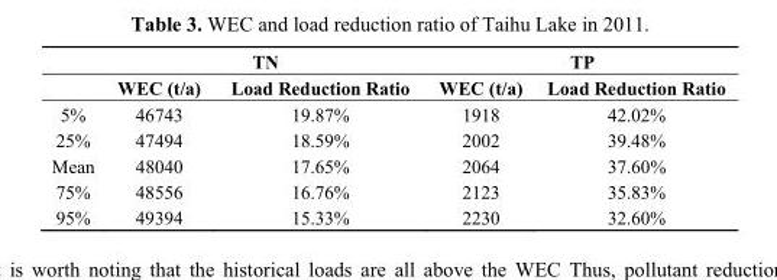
<table><thead><tr><td rowspan="2"></td><td colspan="2">TN</td><td colspan="2">TP</td></tr><tr><td>WEC (t/a)</td><td>Load Reduction Ratio</td><td>WEC (t/a)</td><td>Load Reduction Ratio</td></tr></thead><tbody><tr><td>5%</td><td>46743</td><td>19.87%</td><td>1918</td><td>42.02%</td></tr><tr><td>25%</td><td>47494</td><td>18.59%</td><td>2002</td><td>39.48%</td></tr><tr><td>Mean</td><td>48040</td><td>17.65%</td><td>2064</td><td>37.60%</td></tr><tr><td>75%</td><td>48556</td><td>16.76%</td><td>2123</td><td>35.83%</td></tr><tr><td>95%</td><td>49394</td><td>15.33%</td><td>2230</td><td>32.60%</td></tr></tbody></table>